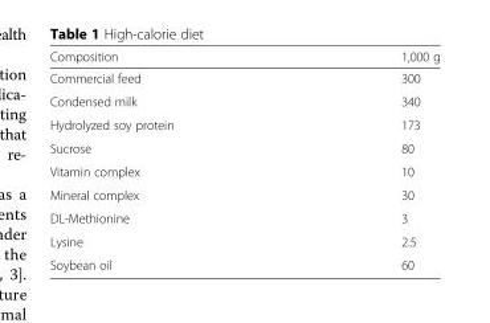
<table><thead><tr><td>Composition</td><td>1,000 g</td></tr></thead><tbody><tr><td>Commercial feed</td><td>300</td></tr><tr><td>Condensed milk</td><td>340</td></tr><tr><td>Hydrolyzed soy protein</td><td>173</td></tr><tr><td>Sucrose</td><td>80</td></tr><tr><td>Vitamin complex</td><td>10</td></tr><tr><td>Mineral complex</td><td>30</td></tr><tr><td>DL-Methionine</td><td>3</td></tr><tr><td>Lysine</td><td>2.5</td></tr><tr><td>Soybean oil</td><td>60</td></tr></tbody></table>